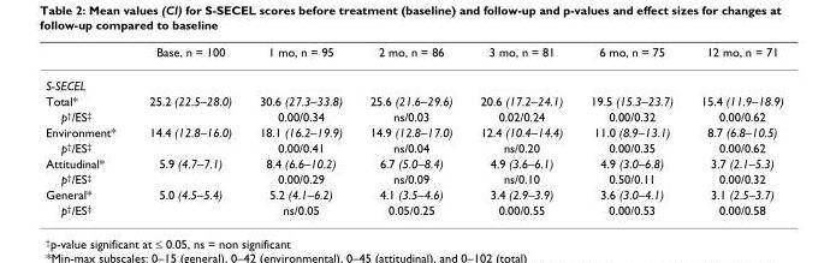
<table><thead><tr><td></td><td>Base, n = 100</td><td>1 mo, n = 95</td><td>2 mo, n = 86</td><td>3 mo, n = 81</td><td>6 mo, n = 75</td><td>12 mo, n = 71</td></tr></thead><tbody><tr><td colspan="7">S-SECEL</td></tr><tr><td>Total*</td><td>25.2 (22.5–28.0)</td><td>30.6 (27.3–33.8)</td><td>25.6 (21.6–29.6)</td><td>20.6 (17.2–24.1)</td><td>19.5 (15.3–23.7)</td><td>15.4 (11.9–18.9)</td></tr><tr><td>p<sup>†</sup>/ES<sup>‡</sup></td><td></td><td>0.00/0.34</td><td>ns/0.03</td><td>0.02/0.24</td><td>0.00/0.32</td><td>0.00/0.62</td></tr><tr><td>Environment*</td><td>14.4 (12.8–16.0)</td><td>18.1 (16.2–19.9)</td><td>14.9 (12.8–17.0)</td><td>12.4 (10.4–14.4)</td><td>11.0 (8.9–13.1)</td><td>8.7 (6.8–10.5)</td></tr><tr><td>p<sup>†</sup>/ES<sup>‡</sup></td><td></td><td>0.00/0.41</td><td>ns/0.04</td><td>ns/0.20</td><td>0.00/0.35</td><td>0.00/0.62</td></tr><tr><td>Attitudinal*</td><td>5.9 (4.7–7.1)</td><td>8.4 (6.6–10.2)</td><td>6.7 (5.0–8.4)</td><td>4.9 (3.6–6.1)</td><td>4.9 (3.0–6.8)</td><td>3.7 (2.1–5.3)</td></tr><tr><td>p<sup>†</sup>/ES<sup>‡</sup></td><td></td><td>0.00/0.29</td><td>ns/0.09</td><td>ns/0.10</td><td>0.50/0.11</td><td>0.00/0.32</td></tr><tr><td>General*</td><td>5.0 (4.5–5.4)</td><td>5.2 (4.1–6.2)</td><td>4.1 (3.5–4.6)</td><td>3.4 (2.9–3.9)</td><td>3.6 (3.0–4.1)</td><td>3.1 (2.5–3.7)</td></tr><tr><td>p<sup>†</sup>/ES<sup>‡</sup></td><td></td><td>ns/0.05</td><td>0.05/0.25</td><td>0.00/0.55</td><td>0.00/0.53</td><td>0.00/0.58</td></tr></tbody></table>